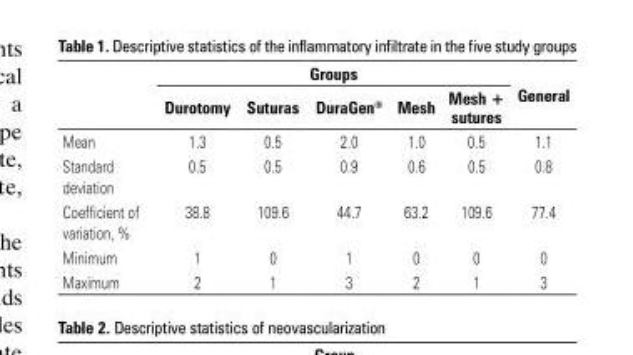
<table><thead><tr><td rowspan="2"></td><td colspan="5">Groups</td><td rowspan="2">General</td></tr><tr><td>Durotomy</td><td>Suturas</td><td>DuraGen<sup>®</sup></td><td>Mesh</td><td>Mesh + sutures</td></tr></thead><tbody><tr><td>Mean</td><td>1.3</td><td>0.5</td><td>2.0</td><td>1.0</td><td>0.5</td><td>1.1</td></tr><tr><td>Standard deviation</td><td>0.5</td><td>0.5</td><td>0.9</td><td>0.6</td><td>0.5</td><td>0.8</td></tr><tr><td>Coefficient of variation, %</td><td>38.8</td><td>109.6</td><td>44.7</td><td>63.2</td><td>109.6</td><td>77.4</td></tr><tr><td>Minimum</td><td>1</td><td>0</td><td>1</td><td>0</td><td>0</td><td>0</td></tr><tr><td>Maximum</td><td>2</td><td>1</td><td>3</td><td>2</td><td>1</td><td>3</td></tr></tbody></table>